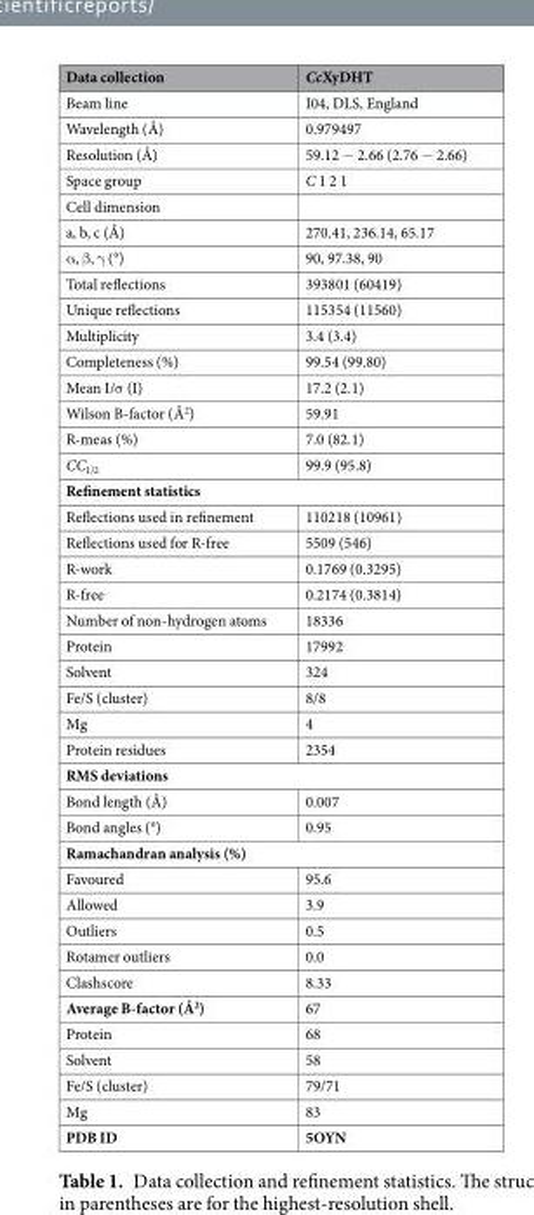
<table><thead><tr><td>Data collection</td><td>CcXyDHT</td></tr></thead><tbody><tr><td>Beam line</td><td>I04, DLS, England</td></tr><tr><td>Wavelength (Å)</td><td>0.979497</td></tr><tr><td>Resolution (Å)</td><td>59.12 − 2.66 (2.76 − 2.66)</td></tr><tr><td>Space group</td><td>C 1 2 1</td></tr><tr><td colspan="2">Cell dimension</td></tr><tr><td>a, b, c (Å)</td><td>270.41, 236.14, 65.17</td></tr><tr><td>α, β, γ (°)</td><td>90, 97.38, 90</td></tr><tr><td>Total reflections</td><td>393801 (60419)</td></tr><tr><td>Unique reflections</td><td>115354 (11560)</td></tr><tr><td>Multiplicity</td><td>3.4 (3.4)</td></tr><tr><td>Completeness (%)</td><td>99.54 (99.80)</td></tr><tr><td>Mean I/σ (I)</td><td>17.2 (2.1)</td></tr><tr><td>Wilson B-factor (Å<sup>2</sup>)</td><td>59.91</td></tr><tr><td>R-meas (%)</td><td>7.0 (82.1)</td></tr><tr><td>CC<sub>1/2</sub></td><td>99.9 (95.8)</td></tr><tr><td colspan="2">Refinement statistics</td></tr><tr><td>Reflections used in refinement</td><td>110218 (10961)</td></tr><tr><td>Reflections used for R-free</td><td>5509 (546)</td></tr><tr><td>R-work</td><td>0.1769 (0.3295)</td></tr><tr><td>R-free</td><td>0.2174 (0.3814)</td></tr><tr><td>Number of non-hydrogen atoms</td><td>18336</td></tr><tr><td>Protein</td><td>17992</td></tr><tr><td>Solvent</td><td>324</td></tr><tr><td>Fe/S (cluster)</td><td>8/8</td></tr><tr><td>Mg</td><td>4</td></tr><tr><td>Protein residues</td><td>2354</td></tr><tr><td colspan="2">RMS deviations</td></tr><tr><td>Bond length (Å)</td><td>0.007</td></tr><tr><td>Bond angles (°)</td><td>0.95</td></tr><tr><td colspan="2">Ramachandran analysis (%)</td></tr><tr><td>Favoured</td><td>95.6</td></tr><tr><td>Allowed</td><td>3.9</td></tr><tr><td>Outliers</td><td>0.5</td></tr><tr><td>Rotamer outliers</td><td>0.0</td></tr><tr><td>Clashscore</td><td>8.33</td></tr><tr><td>Average B-factor (Å<sup>2</sup>)</td><td>67</td></tr><tr><td>Protein</td><td>68</td></tr><tr><td>Solvent</td><td>58</td></tr><tr><td>Fe/S (cluster)</td><td>79/71</td></tr><tr><td>Mg</td><td>83</td></tr><tr><td>PDB ID</td><td>5OYN</td></tr></tbody></table>